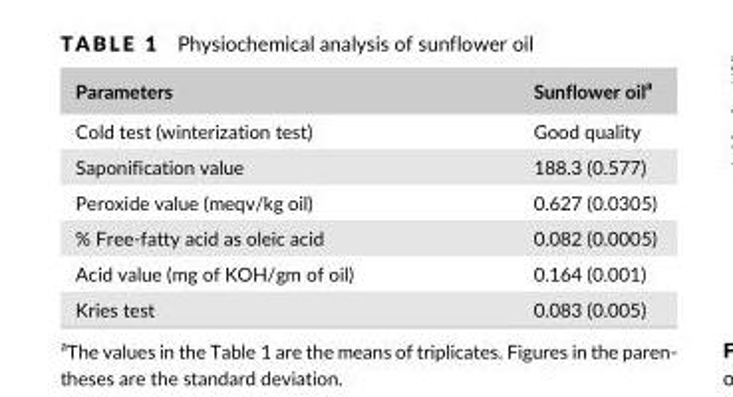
<table><thead><tr><td>Parameters</td><td>Sunflower oil<sup>a</sup></td></tr></thead><tbody><tr><td>Cold test (winterization test)</td><td>Good quality</td></tr><tr><td>Saponification value</td><td>188.3 (0.577)</td></tr><tr><td>Peroxide value (meqv/kg oil)</td><td>0.627 (0.0305)</td></tr><tr><td>% Free- fatty acid as oleic acid</td><td>0.082 (0.0005)</td></tr><tr><td>Acid value (mg of KOH/gm of oil)</td><td>0.164 (0.001)</td></tr><tr><td>Kries test</td><td>0.083 (0.005)</td></tr></tbody></table>